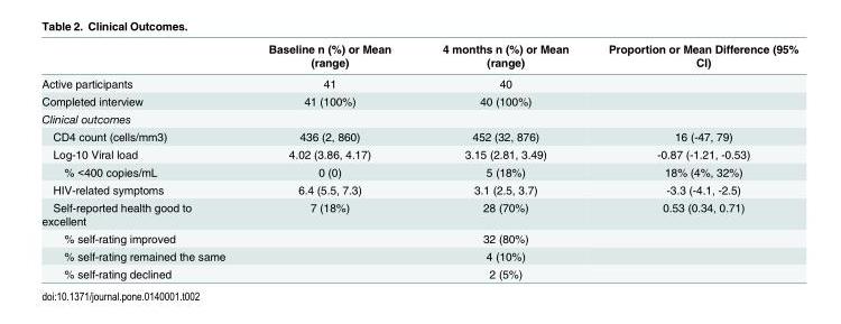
<table><thead><tr><td></td><td>Baseline n (%) or Mean (range)</td><td>4 months n (%) or Mean (range)</td><td>Proportion or Mean Difference (95% CI)</td></tr></thead><tbody><tr><td>Active participants</td><td>41</td><td>40</td><td></td></tr><tr><td>Completed interview</td><td>41 (100%)</td><td>40 (100%)</td><td></td></tr><tr><td colspan="4">Clinical outcomes</td></tr><tr><td>CD4 count (cells/mm3)</td><td>436 (2, 860)</td><td>452 (32, 876)</td><td>16 (-47, 79)</td></tr><tr><td>Log-10 Viral load</td><td>4.02 (3.86, 4.17)</td><td>3.15 (2.81, 3.49)</td><td>-0.87 (-1.21, -0.53)</td></tr><tr><td>% &lt;400 copies/mL</td><td>0 (0)</td><td>5 (18%)</td><td>18% (4%, 32%)</td></tr><tr><td>HIV-related symptoms</td><td>6.4 (5.5, 7.3)</td><td>3.1 (2.5, 3.7)</td><td>-3.3 (-4.1, -2.5)</td></tr><tr><td>Self-reported health good to excellent</td><td>7 (18%)</td><td>28 (70%)</td><td>0.53 (0.34, 0.71)</td></tr><tr><td>% self-rating improved</td><td></td><td>32 (80%)</td><td></td></tr><tr><td>% self-rating remained the same</td><td></td><td>4 (10%)</td><td></td></tr><tr><td>% self-rating declined</td><td></td><td>2 (5%)</td><td></td></tr></tbody></table>